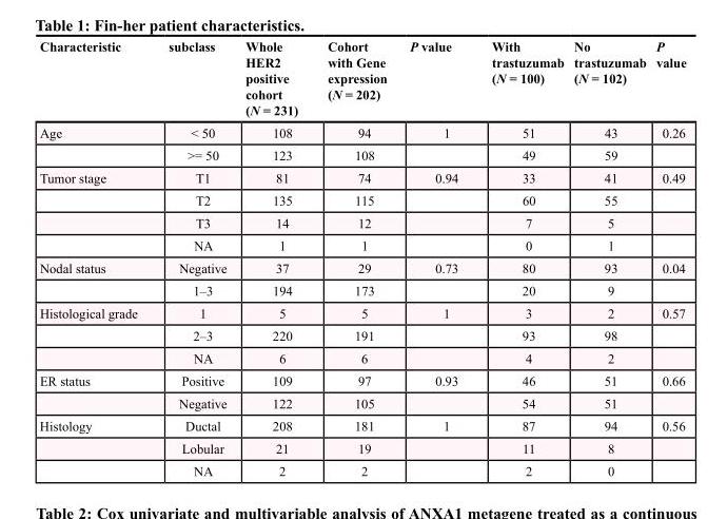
<table><thead><tr><td>Characteristic</td><td>subclass</td><td>Whole HER2 positive cohort (N = 231)</td><td>Cohort with Gene expression (N = 202)</td><td>P value</td><td>With trastuzumab (N = 100)</td><td>No trastuzumab (N = 102)</td><td>P value</td></tr></thead><tbody><tr><td rowspan="2">Age</td><td>&lt; 50</td><td>108</td><td>94</td><td>1</td><td>51</td><td>43</td><td>0.26</td></tr><tr><td>&gt;= 50</td><td>123</td><td>108</td><td></td><td>49</td><td>59</td><td></td></tr><tr><td rowspan="4">Tumor stage</td><td>T1</td><td>81</td><td>74</td><td>0.94</td><td>33</td><td>41</td><td>0.49</td></tr><tr><td>T2</td><td>135</td><td>115</td><td></td><td>60</td><td>55</td><td></td></tr><tr><td>T3</td><td>14</td><td>12</td><td></td><td>7</td><td>5</td><td></td></tr><tr><td>NA</td><td>1</td><td>1</td><td></td><td>0</td><td>1</td><td></td></tr><tr><td rowspan="2">Nodal status</td><td>Negative</td><td>37</td><td>29</td><td>0.73</td><td>80</td><td>93</td><td>0.04</td></tr><tr><td>1–3</td><td>194</td><td>173</td><td></td><td>20</td><td>9</td><td></td></tr><tr><td rowspan="3">Histological grade</td><td>1</td><td>5</td><td>5</td><td>1</td><td>3</td><td>2</td><td>0.57</td></tr><tr><td>2–3</td><td>220</td><td>191</td><td></td><td>93</td><td>98</td><td></td></tr><tr><td>NA</td><td>6</td><td>6</td><td></td><td>4</td><td>2</td><td></td></tr><tr><td rowspan="2">ER status</td><td>Positive</td><td>109</td><td>97</td><td>0.93</td><td>46</td><td>51</td><td>0.66</td></tr><tr><td>Negative</td><td>122</td><td>105</td><td></td><td>54</td><td>51</td><td></td></tr><tr><td rowspan="3">Histology</td><td>Ductal</td><td>208</td><td>181</td><td>1</td><td>87</td><td>94</td><td>0.56</td></tr><tr><td>Lobular</td><td>21</td><td>19</td><td></td><td>11</td><td>8</td><td></td></tr><tr><td>NA</td><td>2</td><td>2</td><td></td><td>2</td><td>0</td><td></td></tr></tbody></table>